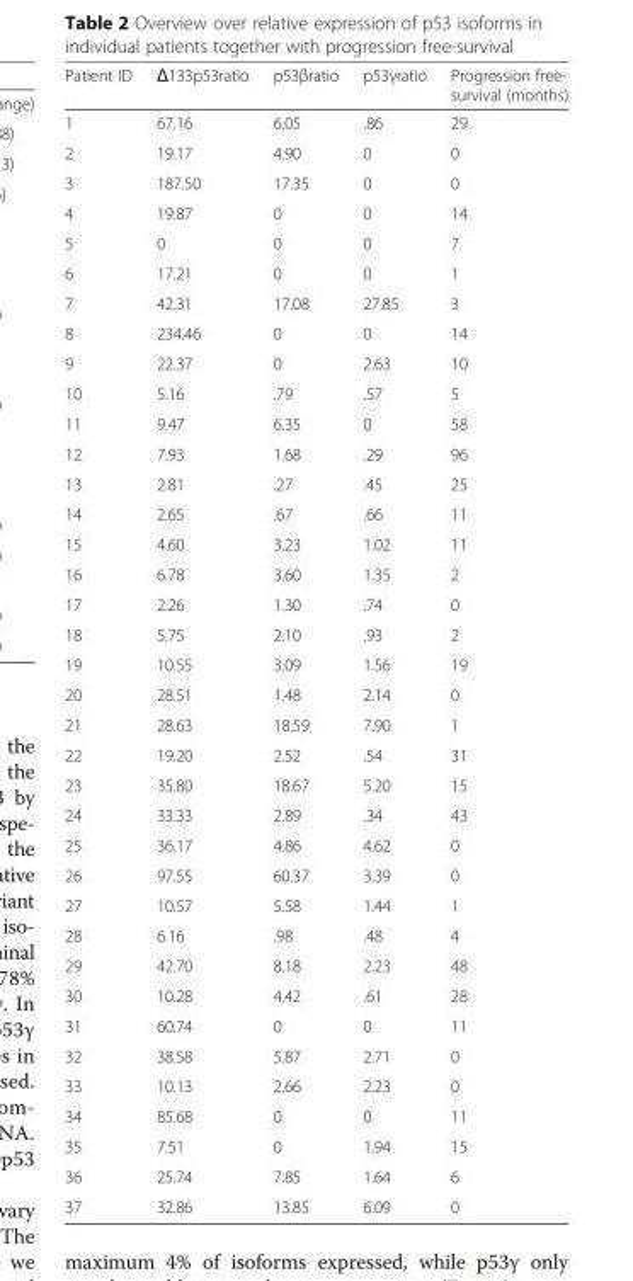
<table><thead><tr><td>Patient ID</td><td>Δ133p53ratio</td><td>p53βratio</td><td>p53γratio</td><td>Progression free- survival (months)</td></tr></thead><tbody><tr><td>1</td><td>67.16</td><td>6.05</td><td>.86</td><td>29</td></tr><tr><td>2</td><td>19.17</td><td>4.90</td><td>0</td><td>0</td></tr><tr><td>3</td><td>187.50</td><td>17.35</td><td>0</td><td>0</td></tr><tr><td>4</td><td>19.87</td><td>0</td><td>0</td><td>14</td></tr><tr><td>5</td><td>0</td><td>0</td><td>0</td><td>7</td></tr><tr><td>6</td><td>17.21</td><td>0</td><td>0</td><td>1</td></tr><tr><td>7</td><td>42.31</td><td>17.08</td><td>27.85</td><td>3</td></tr><tr><td>8</td><td>234.46</td><td>0</td><td>0</td><td>14</td></tr><tr><td>9</td><td>22.37</td><td>0</td><td>2.63</td><td>10</td></tr><tr><td>10</td><td>5.16</td><td>.79</td><td>.57</td><td>5</td></tr><tr><td>11</td><td>9.47</td><td>6.35</td><td>0</td><td>58</td></tr><tr><td>12</td><td>7.93</td><td>1.68</td><td>.29</td><td>96</td></tr><tr><td>13</td><td>2.81</td><td>.27</td><td>.45</td><td>25</td></tr><tr><td>14</td><td>2.65</td><td>.67</td><td>.66</td><td>11</td></tr><tr><td>15</td><td>4.60</td><td>3.23</td><td>1.02</td><td>11</td></tr><tr><td>16</td><td>6.78</td><td>3.60</td><td>1.35</td><td>2</td></tr><tr><td>17</td><td>2.26</td><td>1.30</td><td>.74</td><td>0</td></tr><tr><td>18</td><td>5.75</td><td>2.10</td><td>.93</td><td>2</td></tr><tr><td>19</td><td>10.55</td><td>3.09</td><td>1.56</td><td>19</td></tr><tr><td>20</td><td>28.51</td><td>1.48</td><td>2.14</td><td>0</td></tr><tr><td>21</td><td>28.63</td><td>18.59</td><td>7.90</td><td>1</td></tr><tr><td>22</td><td>19.20</td><td>2.52</td><td>.54</td><td>31</td></tr><tr><td>23</td><td>35.80</td><td>18.67</td><td>5.20</td><td>15</td></tr><tr><td>24</td><td>33.33</td><td>2.89</td><td>.34</td><td>43</td></tr><tr><td>25</td><td>36.17</td><td>4.86</td><td>4.62</td><td>0</td></tr><tr><td>26</td><td>97.55</td><td>60.37</td><td>3.39</td><td>0</td></tr><tr><td>27</td><td>10.57</td><td>5.58</td><td>1.44</td><td>1</td></tr><tr><td>28</td><td>6.16</td><td>.98</td><td>.48</td><td>4</td></tr><tr><td>29</td><td>42.70</td><td>8.18</td><td>2.23</td><td>48</td></tr><tr><td>30</td><td>10.28</td><td>4.42</td><td>.61</td><td>28</td></tr><tr><td>31</td><td>60.74</td><td>0</td><td>0</td><td>11</td></tr><tr><td>32</td><td>38.58</td><td>5.87</td><td>2.71</td><td>0</td></tr><tr><td>33</td><td>10.13</td><td>2.66</td><td>2.23</td><td>0</td></tr><tr><td>34</td><td>85.68</td><td>0</td><td>0</td><td>11</td></tr><tr><td>35</td><td>7.51</td><td>0</td><td>1.94</td><td>15</td></tr><tr><td>36</td><td>25.74</td><td>7.85</td><td>1.64</td><td>6</td></tr><tr><td>37</td><td>32.86</td><td>13.85</td><td>6.09</td><td>0</td></tr></tbody></table>